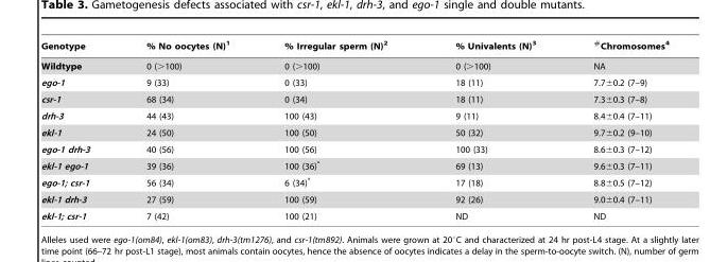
<table><thead><tr><td>Genotype</td><td>% No oocytes (N)<sup>1</sup></td><td>% Irregular sperm (N)<sup>2</sup></td><td>% Univalents (N)<sup>3</sup></td><td><sup>#</sup>Chromosomes<sup>4</sup></td></tr></thead><tbody><tr><td>Wildtype</td><td>0 (&gt;100)</td><td>0 (&gt;100)</td><td>0 (&gt;100)</td><td>NA</td></tr><tr><td>ego-1</td><td>9 (33)</td><td>0 (33)</td><td>18 (11)</td><td>7.7±0.2 (7–9)</td></tr><tr><td>csr-1</td><td>68 (34)</td><td>0 (34)</td><td>18 (11)</td><td>7.3±0.3 (7–8)</td></tr><tr><td>drh-3</td><td>44 (43)</td><td>100 (43)</td><td>9 (11)</td><td>8.4±0.4 (7–11)</td></tr><tr><td>ekl-1</td><td>24 (50)</td><td>100 (50)</td><td>50 (32)</td><td>9.7±0.2 (9–10)</td></tr><tr><td>ego-1 drh-3</td><td>40 (56)</td><td>100 (56)</td><td>100 (33)</td><td>8.6±0.3 (7–12)</td></tr><tr><td>ekl-1 ego-1</td><td>39 (36)</td><td>100 (36)*</td><td>69 (13)</td><td>9.6±0.3 (7–11)</td></tr><tr><td>ego-1; csr-1</td><td>56 (34)</td><td>6 (34)*</td><td>17 (18)</td><td>8.8±0.5 (7–12)</td></tr><tr><td>ekl-1 drh-3</td><td>27 (59)</td><td>100 (59)</td><td>92 (26)</td><td>9.0±0.4 (7–11)</td></tr><tr><td>ekl-1; csr-1</td><td>7 (42)</td><td>100 (21)</td><td>ND</td><td>ND</td></tr></tbody></table>